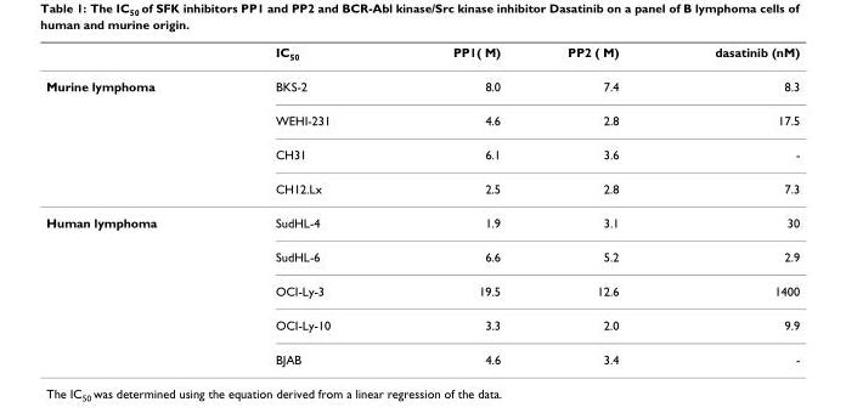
<table><thead><tr><td></td><td>IC<sub>50</sub></td><td>PP1( M)</td><td>PP2 ( M)</td><td>dasatinib (nM)</td></tr></thead><tbody><tr><td rowspan="4">Murine lymphoma</td><td>BKS-2</td><td>8.0</td><td>7.4</td><td>8.3</td></tr><tr><td>WEHI-231</td><td>4.6</td><td>2.8</td><td>17.5</td></tr><tr><td>CH31</td><td>6.1</td><td>3.6</td><td>-</td></tr><tr><td>CH12.Lx</td><td>2.5</td><td>2.8</td><td>7.3</td></tr><tr><td rowspan="5">Human lymphoma</td><td>SudHL-4</td><td>1.9</td><td>3.1</td><td>30</td></tr><tr><td>SudHL-6</td><td>6.6</td><td>5.2</td><td>2.9</td></tr><tr><td>OCI-Ly-3</td><td>19.5</td><td>12.6</td><td>1400</td></tr><tr><td>OCI-Ly-10</td><td>3.3</td><td>2.0</td><td>9.9</td></tr><tr><td>BJAB</td><td>4.6</td><td>3.4</td><td>-</td></tr></tbody></table>